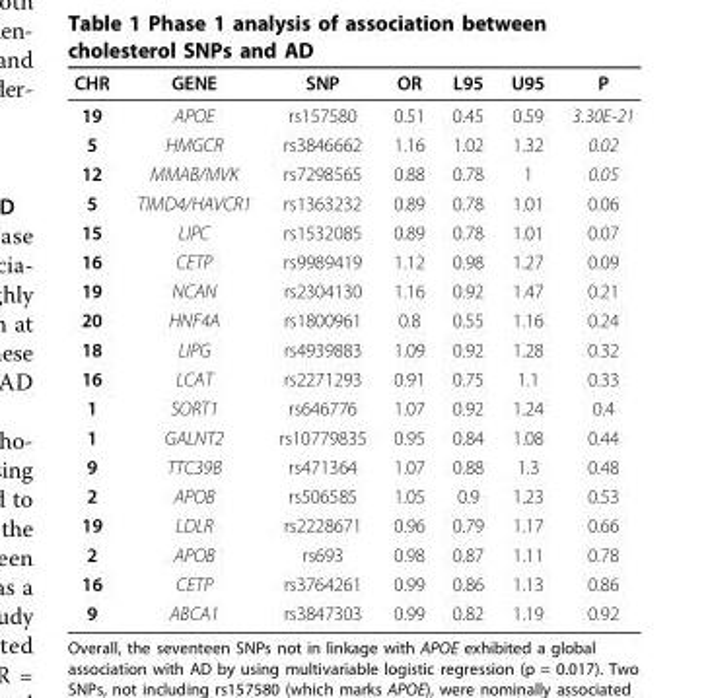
<table><thead><tr><td>CHR</td><td>GENE</td><td>SNP</td><td>OR</td><td>L95</td><td>U95</td><td>P</td></tr></thead><tbody><tr><td>19</td><td>APOE</td><td>rs157580</td><td>0.51</td><td>0.45</td><td>0.59</td><td>3.30E-21</td></tr><tr><td>5</td><td>HMGCR</td><td>rs3846662</td><td>1.16</td><td>1.02</td><td>1.32</td><td>0.02</td></tr><tr><td>12</td><td>MMAB/MVK</td><td>rs7298565</td><td>0.88</td><td>0.78</td><td>1</td><td>0.05</td></tr><tr><td>5</td><td>TIMD4/HAVCR1</td><td>rs1363232</td><td>0.89</td><td>0.78</td><td>1.01</td><td>0.06</td></tr><tr><td>15</td><td>LIPC</td><td>rs1532085</td><td>0.89</td><td>0.78</td><td>1.01</td><td>0.07</td></tr><tr><td>16</td><td>CETP</td><td>rs9989419</td><td>1.12</td><td>0.98</td><td>1.27</td><td>0.09</td></tr><tr><td>19</td><td>NCAN</td><td>rs2304130</td><td>1.16</td><td>0.92</td><td>1.47</td><td>0.21</td></tr><tr><td>20</td><td>HNF4A</td><td>rs1800961</td><td>0.8</td><td>0.55</td><td>1.16</td><td>0.24</td></tr><tr><td>18</td><td>LIPG</td><td>rs4939883</td><td>1.09</td><td>0.92</td><td>1.28</td><td>0.32</td></tr><tr><td>16</td><td>LCAT</td><td>rs2271293</td><td>0.91</td><td>0.75</td><td>1.1</td><td>0.33</td></tr><tr><td>1</td><td>SORT1</td><td>rs646776</td><td>1.07</td><td>0.92</td><td>1.24</td><td>0.4</td></tr><tr><td>1</td><td>GALNT2</td><td>rs10779835</td><td>0.95</td><td>0.84</td><td>1.08</td><td>0.44</td></tr><tr><td>9</td><td>TTC39B</td><td>rs471364</td><td>1.07</td><td>0.88</td><td>1.3</td><td>0.48</td></tr><tr><td>2</td><td>APOB</td><td>rs506585</td><td>1.05</td><td>0.9</td><td>1.23</td><td>0.53</td></tr><tr><td>19</td><td>LDLR</td><td>rs2228671</td><td>0.96</td><td>0.79</td><td>1.17</td><td>0.66</td></tr><tr><td>2</td><td>APOB</td><td>rs693</td><td>0.98</td><td>0.87</td><td>1.11</td><td>0.78</td></tr><tr><td>16</td><td>CETP</td><td>rs3764261</td><td>0.99</td><td>0.86</td><td>1.13</td><td>0.86</td></tr><tr><td>9</td><td>ABCA1</td><td>rs3847303</td><td>0.99</td><td>0.82</td><td>1.19</td><td>0.92</td></tr></tbody></table>